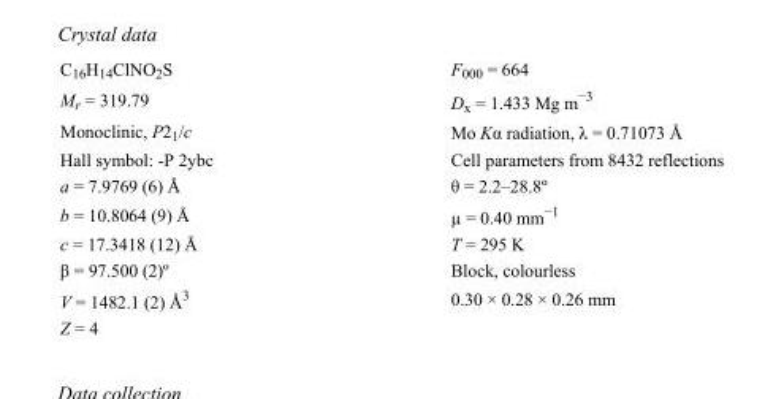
<table><tbody><tr><td>C<sub>16</sub>H<sub>14</sub>ClNO<sub>2</sub>S</td><td>F000 = 664</td></tr><tr><td>M<sub>r</sub> = 319.79</td><td>D<sub>x</sub> = 1.433 Mg m<sup>−3</sup></td></tr><tr><td>Monoclinic, P2<sub>1</sub>/c</td><td>Mo Kα radiation, λ = 0.71073 Å</td></tr><tr><td>Hall symbol: -P 2ybc</td><td>Cell parameters from 8432 reflections</td></tr><tr><td>a = 7.9769 (6) Å</td><td>θ = 2.2–28.8º</td></tr><tr><td>b = 10.8064 (9) Å</td><td>µ = 0.40 mm<sup>−1</sup></td></tr><tr><td>c = 17.3418 (12) Å</td><td>T = 295 K</td></tr><tr><td>β = 97.500 (2)º</td><td>Block, colourless</td></tr><tr><td>V = 1482.1 (2) Å<sup>3</sup></td><td>0.30 × 0.28 × 0.26 mm</td></tr><tr><td>Z = 4</td><td></td></tr></tbody></table>